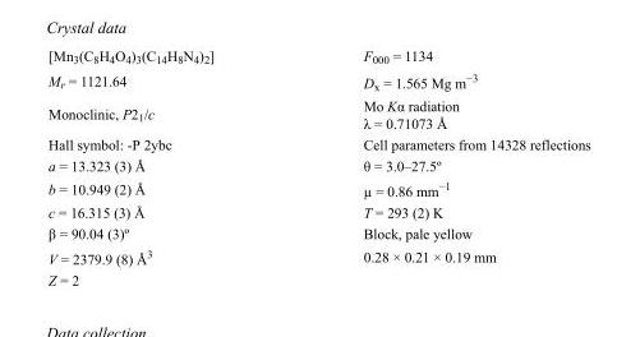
<table><tbody><tr><td>[Mn<sub>3</sub>(C<sub>8</sub>H<sub>4</sub>O<sub>4</sub>)<sub>3</sub>(C<sub>14</sub>H<sub>8</sub>N<sub>4</sub>)<sub>2</sub>]</td><td>F<sub>000</sub> = 1134</td></tr><tr><td>M<sub>r</sub> = 1121.64</td><td>D<sub>x</sub> = 1.565 Mg m<sup>−3</sup></td></tr><tr><td>Monoclinic, P2<sub>1</sub>/c</td><td>Mo Kα radiation λ = 0.71073 Å</td></tr><tr><td>Hall symbol: -P 2ybc</td><td>Cell parameters from 14328 reflections</td></tr><tr><td>a = 13.323 (3) Å</td><td>θ = 3.0–27.5º</td></tr><tr><td>b = 10.949 (2) Å</td><td>µ = 0.86 mm<sup>−1</sup></td></tr><tr><td>c = 16.315 (3) Å</td><td>T = 293 (2) K</td></tr><tr><td>β = 90.04 (3)º</td><td>Block, pale yellow</td></tr><tr><td>V = 2379.9 (8) Å<sup>3</sup></td><td>0.28 × 0.21 × 0.19 mm</td></tr><tr><td>Z = 2</td><td></td></tr></tbody></table>